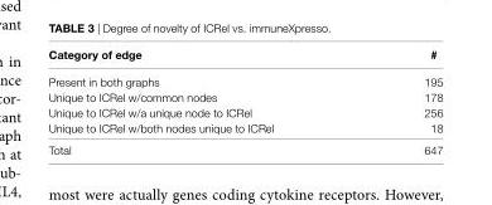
<table><thead><tr><td>category of edge</td><td>#</td></tr></thead><tbody><tr><td>Present in both graphs</td><td>195</td></tr><tr><td>Unique to ICRel w/common nodes</td><td>178</td></tr><tr><td>Unique to ICRel w/a unique node to ICRel</td><td>256</td></tr><tr><td>Unique to ICRel w/both nodes unique to ICRel</td><td>18</td></tr><tr><td>Total</td><td>647</td></tr></tbody></table>